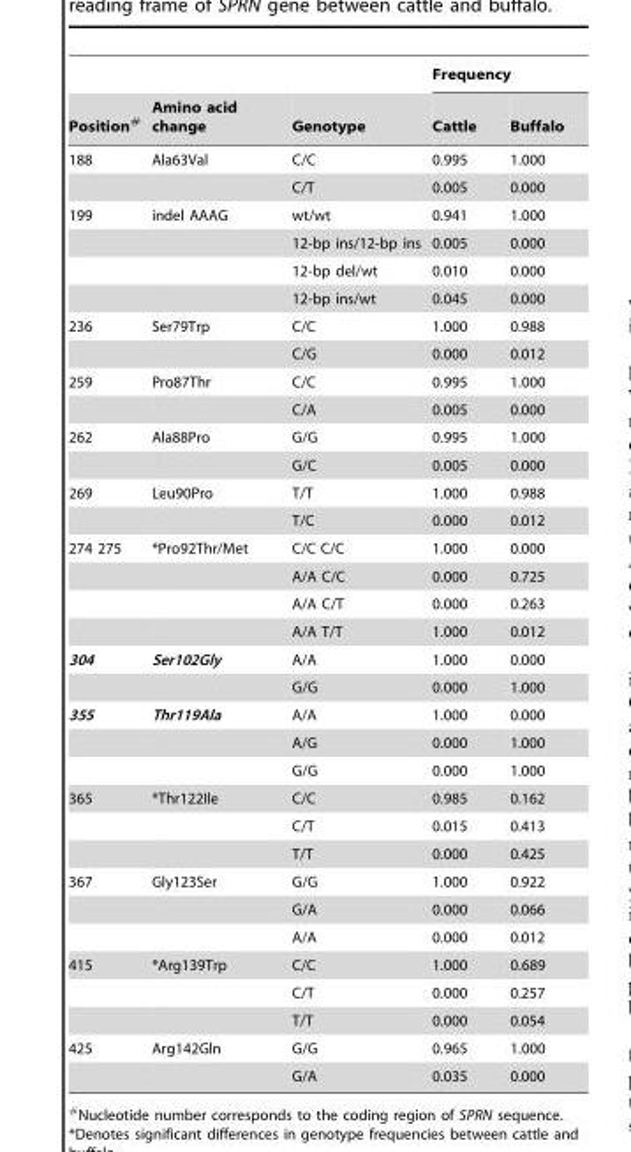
<table><thead><tr><td rowspan="2">Position#</td><td rowspan="2">Amino acid change</td><td rowspan="2">Genotype</td><td colspan="2">Frequency</td></tr><tr><td>Cattle</td><td>Buffalo</td></tr></thead><tbody><tr><td rowspan="2">188</td><td>Ala63Val</td><td>C/C</td><td>0.995</td><td>1.000</td></tr><tr><td></td><td>C/T</td><td>0.005</td><td>0.000</td></tr><tr><td rowspan="4">199</td><td>indel AAAG</td><td>wt/wt</td><td>0.941</td><td>1.000</td></tr><tr><td></td><td>12-bp ins/12-bp ins</td><td>0.005</td><td>0.000</td></tr><tr><td></td><td>12-bp del/wt</td><td>0.010</td><td>0.000</td></tr><tr><td></td><td>12-bp ins/wt</td><td>0.045</td><td>0.000</td></tr><tr><td rowspan="2">236</td><td>Ser79Trp</td><td>C/C</td><td>1.000</td><td>0.988</td></tr><tr><td></td><td>C/G</td><td>0.000</td><td>0.012</td></tr><tr><td rowspan="2">259</td><td>Pro87Thr</td><td>C/C</td><td>0.995</td><td>1.000</td></tr><tr><td></td><td>C/A</td><td>0.005</td><td>0.000</td></tr><tr><td rowspan="2">262</td><td>Ala88Pro</td><td>G/G</td><td>0.995</td><td>1.000</td></tr><tr><td></td><td>G/C</td><td>0.005</td><td>0.000</td></tr><tr><td rowspan="2">269</td><td>Leu90Pro</td><td>T/T</td><td>1.000</td><td>0.988</td></tr><tr><td></td><td>T/C</td><td>0.000</td><td>0.012</td></tr><tr><td rowspan="4">274 275</td><td>*Pro92Thr/Met</td><td>C/C C/C</td><td>1.000</td><td>0.000</td></tr><tr><td></td><td>A/A C/C</td><td>0.000</td><td>0.725</td></tr><tr><td></td><td>A/A C/T</td><td>0.000</td><td>0.263</td></tr><tr><td></td><td>A/A T/T</td><td>1.000</td><td>0.012</td></tr><tr><td rowspan="2">304</td><td>Ser102Gly</td><td>A/A</td><td>1.000</td><td>0.000</td></tr><tr><td></td><td>G/G</td><td>0.000</td><td>1.000</td></tr><tr><td rowspan="3">355</td><td>Thr119Ala</td><td>A/A</td><td>1.000</td><td>0.000</td></tr><tr><td></td><td>A/G</td><td>0.000</td><td>1.000</td></tr><tr><td></td><td>G/G</td><td>0.000</td><td>1.000</td></tr><tr><td rowspan="3">365</td><td>*Thr122Ile</td><td>C/C</td><td>0.985</td><td>0.162</td></tr><tr><td></td><td>C/T</td><td>0.015</td><td>0.413</td></tr><tr><td></td><td>T/T</td><td>0.000</td><td>0.425</td></tr><tr><td rowspan="3">367</td><td>Gly123Ser</td><td>G/G</td><td>1.000</td><td>0.922</td></tr><tr><td></td><td>G/A</td><td>0.000</td><td>0.066</td></tr><tr><td></td><td>A/A</td><td>0.000</td><td>0.012</td></tr><tr><td rowspan="3">415</td><td>*Arg139Trp</td><td>C/C</td><td>1.000</td><td>0.689</td></tr><tr><td></td><td>C/T</td><td>0.000</td><td>0.257</td></tr><tr><td></td><td>T/T</td><td>0.000</td><td>0.054</td></tr><tr><td rowspan="2">425</td><td>Arg142Gln</td><td>G/G</td><td>0.965</td><td>1.000</td></tr><tr><td></td><td>G/A</td><td>0.035</td><td>0.000</td></tr></tbody></table>